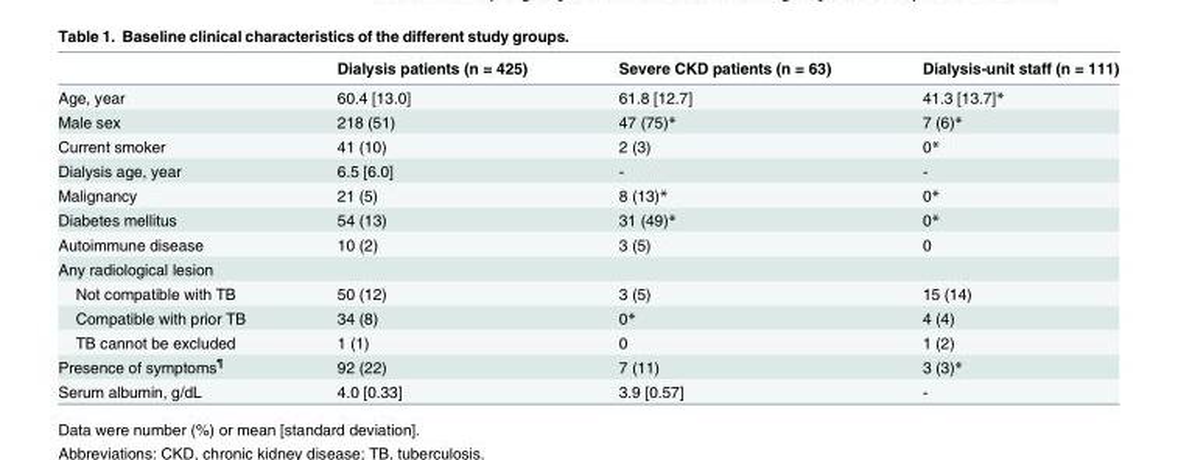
<table><thead><tr><td></td><td>Dialysis patients (n = 425)</td><td>Severe CKD patients (n = 63)</td><td>Dialysis-unit staff (n = 111)</td></tr></thead><tbody><tr><td>Age, year</td><td>60.4 [13.0]</td><td>61.8 [12.7]</td><td>41.3 [13.7]*</td></tr><tr><td>Male sex</td><td>218 (51)</td><td>47 (75)*</td><td>7 (6)*</td></tr><tr><td>Current smoker</td><td>41 (10)</td><td>2 (3)</td><td>0*</td></tr><tr><td>Dialysis age, year</td><td>6.5 [6.0]</td><td>-</td><td>-</td></tr><tr><td>Malignancy</td><td>21 (5)</td><td>8 (13)*</td><td>0*</td></tr><tr><td>Diabetes mellitus</td><td>54 (13)</td><td>31 (49)*</td><td>0*</td></tr><tr><td>Autoimmune disease</td><td>10 (2)</td><td>3 (5)</td><td>0</td></tr><tr><td colspan="4">Any radiological lesion</td></tr><tr><td>Not compatible with TB</td><td>50 (12)</td><td>3 (5)</td><td>15 (14)</td></tr><tr><td>Compatible with prior TB</td><td>34 (8)</td><td>0*</td><td>4 (4)</td></tr><tr><td>TB cannot be excluded</td><td>1 (1)</td><td>0</td><td>1 (2)</td></tr><tr><td>Presence of symptoms<sup>¶</sup></td><td>92 (22)</td><td>7 (11)</td><td>3 (3)*</td></tr><tr><td>Serum albumin, g/dL</td><td>4.0 [0.33]</td><td>3.9 [0.57]</td><td>-</td></tr></tbody></table>